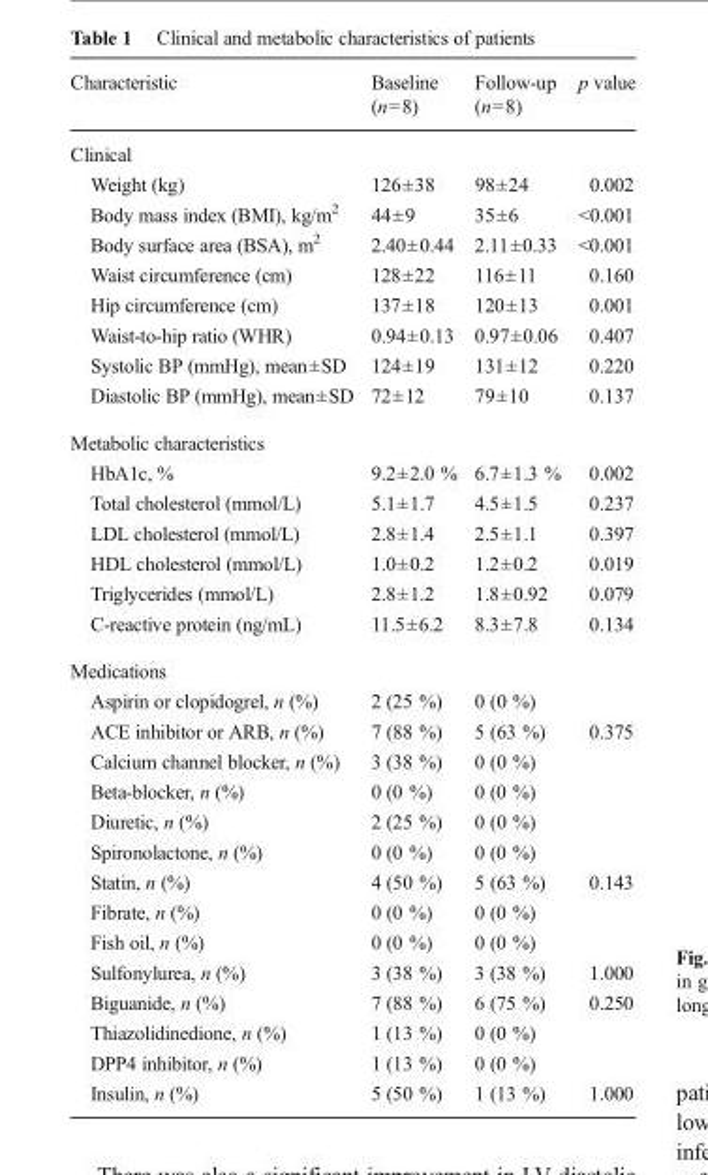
<table><thead><tr><td>Characteristic</td><td>Baseline (n=8)</td><td>Follow-up (n=8)</td><td>p value</td></tr></thead><tbody><tr><td colspan="4">Clinical</td></tr><tr><td>Weight (kg)</td><td>126±38</td><td>98±24</td><td>0.002</td></tr><tr><td>Body mass index (BMI), kg/m<sup>2</sup></td><td>44±9</td><td>35±6</td><td>&lt;0.001</td></tr><tr><td>Body surface area (BSA), m<sup>2</sup></td><td>2.40±0.44</td><td>2.11±0.33</td><td>&lt;0.001</td></tr><tr><td>Waist circumference (cm)</td><td>128±22</td><td>116±11</td><td>0.160</td></tr><tr><td>Hip circumference (cm)</td><td>137±18</td><td>120±13</td><td>0.001</td></tr><tr><td>Waist-to-hip ratio (WHR)</td><td>0.94±0.13</td><td>0.97±0.06</td><td>0.407</td></tr><tr><td>Systolic BP (mmHg), mean±SD</td><td>124±19</td><td>131±12</td><td>0.220</td></tr><tr><td>Diastolic BP (mmHg), mean±SD</td><td>72±12</td><td>79±10</td><td>0.137</td></tr><tr><td colspan="4">Metabolic characteristics</td></tr><tr><td>HbA1c, %</td><td>9.2±2.0 %</td><td>6.7±1.3 %</td><td>0.002</td></tr><tr><td>Total cholesterol (mmol/L)</td><td>5.1±1.7</td><td>4.5±1.5</td><td>0.237</td></tr><tr><td>LDL cholesterol (mmol/L)</td><td>2.8±1.4</td><td>2.5±1.1</td><td>0.397</td></tr><tr><td>HDL cholesterol (mmol/L)</td><td>1.0±0.2</td><td>1.2±0.2</td><td>0.019</td></tr><tr><td>Triglycerides (mmol/L)</td><td>2.8±1.2</td><td>1.8±0.92</td><td>0.079</td></tr><tr><td>C-reactive protein (ng/mL)</td><td>11.5±6.2</td><td>8.3±7.8</td><td>0.134</td></tr><tr><td colspan="4">Medications</td></tr><tr><td>Aspirin or clopidogrel, n (%)</td><td>2 (25 %)</td><td>0 (0 %)</td><td></td></tr><tr><td>ACE inhibitor or ARB, n (%)</td><td>7 (88 %)</td><td>5 (63 %)</td><td>0.375</td></tr><tr><td>Calcium channel blocker, n (%)</td><td>3 (38 %)</td><td>0 (0 %)</td><td></td></tr><tr><td>Beta-blocker, n (%)</td><td>0 (0 %)</td><td>0 (0 %)</td><td></td></tr><tr><td>Diuretic, n (%)</td><td>2 (25 %)</td><td>0 (0 %)</td><td></td></tr><tr><td>Spironolactone, n (%)</td><td>0 (0 %)</td><td>0 (0 %)</td><td></td></tr><tr><td>Statin, n (%)</td><td>4 (50 %)</td><td>5 (63 %)</td><td>0.143</td></tr><tr><td>Fibrate, n (%)</td><td>0 (0 %)</td><td>0 (0 %)</td><td></td></tr><tr><td>Fish oil, n (%)</td><td>0 (0 %)</td><td>0 (0 %)</td><td></td></tr><tr><td>Sulfonylurea, n (%)</td><td>3 (38 %)</td><td>3 (38 %)</td><td>1.000</td></tr><tr><td>Biguanide, n (%)</td><td>7 (88 %)</td><td>6 (75 %)</td><td>0.250</td></tr><tr><td>Thiazolidinedione, n (%)</td><td>1 (13 %)</td><td>0 (0 %)</td><td></td></tr><tr><td>DPP4 inhibitor, n (%)</td><td>1 (13 %)</td><td>0 (0 %)</td><td></td></tr><tr><td>Insulin, n (%)</td><td>5 (50 %)</td><td>1 (13 %)</td><td>1.000</td></tr></tbody></table>